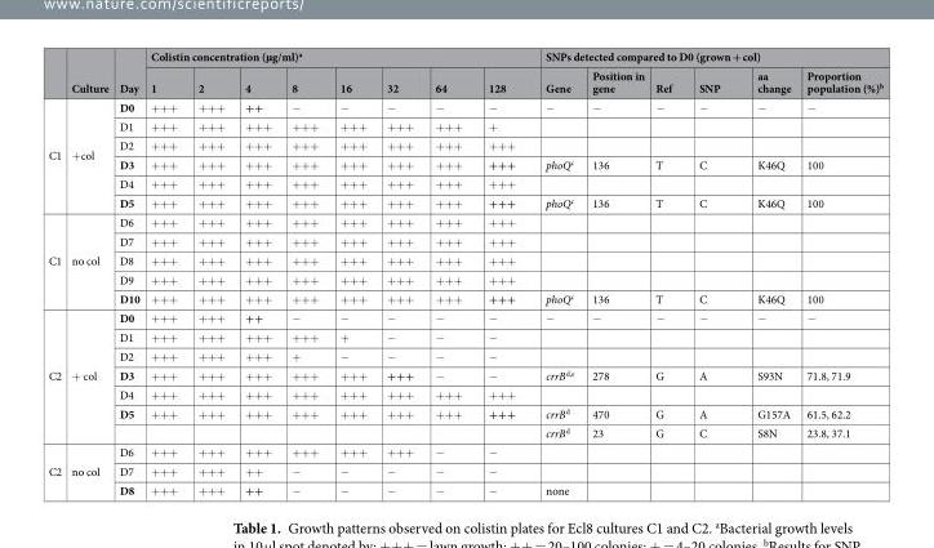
<table><thead><tr><td rowspan="2"></td><td rowspan="2">Culture</td><td rowspan="2">Day</td><td colspan="8">Colistin concentration (µg/ml)<sup>a</sup></td><td colspan="6">SNPs detected compared to D0 (grown + col)</td></tr><tr><td>1</td><td>2</td><td>4</td><td>8</td><td>16</td><td>32</td><td>64</td><td>128</td><td>Gene</td><td>Position in gene</td><td>Ref</td><td>SNP</td><td>aa change</td><td>Proportion population (%)<sup>b</sup></td></tr></thead><tbody><tr><td rowspan="6">C1</td><td rowspan="6">+col</td><td>D0</td><td>+++</td><td>+++</td><td>++</td><td>−</td><td>−</td><td>−</td><td>−</td><td>−</td><td>−</td><td>−</td><td>−</td><td>−</td><td>−</td><td>−</td></tr><tr><td>D1</td><td>+++</td><td>+++</td><td>+++</td><td>+++</td><td>+++</td><td>+++</td><td>+++</td><td>+</td><td></td><td></td><td></td><td></td><td></td><td></td></tr><tr><td>D2</td><td>+++</td><td>+++</td><td>+++</td><td>+++</td><td>+++</td><td>+++</td><td>+++</td><td>+++</td><td></td><td></td><td></td><td></td><td></td><td></td></tr><tr><td>D3</td><td>+++</td><td>+++</td><td>+++</td><td>+++</td><td>+++</td><td>+++</td><td>+++</td><td>+++</td><td>phoQ<sup>c</sup></td><td>136</td><td>T</td><td>C</td><td>K46Q</td><td>100</td></tr><tr><td>D4</td><td>+++</td><td>+++</td><td>+++</td><td>+++</td><td>+++</td><td>+++</td><td>+++</td><td>+++</td><td></td><td></td><td></td><td></td><td></td><td></td></tr><tr><td>D5</td><td>+++</td><td>+++</td><td>+++</td><td>+++</td><td>+++</td><td>+++</td><td>+++</td><td>+++</td><td>phoQ<sup>c</sup></td><td>136</td><td>T</td><td>C</td><td>K46Q</td><td>100</td></tr><tr><td rowspan="5">C1</td><td rowspan="5">no col</td><td>D6</td><td>+++</td><td>+++</td><td>+++</td><td>+++</td><td>+++</td><td>+++</td><td>+++</td><td>+++</td><td></td><td></td><td></td><td></td><td></td><td></td></tr><tr><td>D7</td><td>+++</td><td>+++</td><td>+++</td><td>+++</td><td>+++</td><td>+++</td><td>+++</td><td>+++</td><td></td><td></td><td></td><td></td><td></td><td></td></tr><tr><td>D8</td><td>+++</td><td>+++</td><td>+++</td><td>+++</td><td>+++</td><td>+++</td><td>+++</td><td>+++</td><td></td><td></td><td></td><td></td><td></td><td></td></tr><tr><td>D9</td><td>+++</td><td>+++</td><td>+++</td><td>+++</td><td>+++</td><td>+++</td><td>+++</td><td>+++</td><td></td><td></td><td></td><td></td><td></td><td></td></tr><tr><td>D10</td><td>+++</td><td>+++</td><td>+++</td><td>+++</td><td>+++</td><td>+++</td><td>+++</td><td>+++</td><td>phoQ<sup>c</sup></td><td>136</td><td>T</td><td>C</td><td>K46Q</td><td>100</td></tr><tr><td rowspan="7">C2</td><td rowspan="7">+ col</td><td>D0</td><td>+++</td><td>+++</td><td>++</td><td>−</td><td>−</td><td>−</td><td>−</td><td>−</td><td>−</td><td>−</td><td>−</td><td>−</td><td>−</td><td>−</td></tr><tr><td>D1</td><td>+++</td><td>+++</td><td>+++</td><td>+++</td><td>+</td><td>−</td><td>−</td><td>−</td><td></td><td></td><td></td><td></td><td></td><td></td></tr><tr><td>D2</td><td>+++</td><td>+++</td><td>+++</td><td>+</td><td>−</td><td>−</td><td>−</td><td>−</td><td></td><td></td><td></td><td></td><td></td><td></td></tr><tr><td>D3</td><td>+++</td><td>+++</td><td>+++</td><td>+++</td><td>+++</td><td>+++</td><td>−</td><td>−</td><td>crrB<sup>d,e</sup></td><td>278</td><td>G</td><td>A</td><td>S93N</td><td>71.8, 71.9</td></tr><tr><td>D4</td><td>+++</td><td>+++</td><td>+++</td><td>+++</td><td>+++</td><td>+++</td><td>+++</td><td>+++</td><td></td><td></td><td></td><td></td><td></td><td></td></tr><tr><td>D5</td><td>+++</td><td>+++</td><td>+++</td><td>+++</td><td>+++</td><td>+++</td><td>+++</td><td>+++</td><td>crrB<sup>d</sup></td><td>470</td><td>G</td><td>A</td><td>G157A</td><td>61.5, 62.2</td></tr><tr><td></td><td></td><td></td><td></td><td></td><td></td><td></td><td></td><td></td><td>crrB<sup>d</sup></td><td>23</td><td>G</td><td>C</td><td>S8N</td><td>23.8, 37.1</td></tr><tr><td rowspan="3">C2</td><td rowspan="3">no col</td><td>D6</td><td>+++</td><td>+++</td><td>+++</td><td>+++</td><td>+++</td><td>+++</td><td>−</td><td>−</td><td></td><td></td><td></td><td></td><td></td><td></td></tr><tr><td>D7</td><td>+++</td><td>+++</td><td>++</td><td>−</td><td>−</td><td>−</td><td>−</td><td>−</td><td></td><td></td><td></td><td></td><td></td><td></td></tr><tr><td>D8</td><td>+++</td><td>+++</td><td>++</td><td>−</td><td>−</td><td>−</td><td>−</td><td>−</td><td>none</td><td></td><td></td><td></td><td></td><td></td></tr></tbody></table>